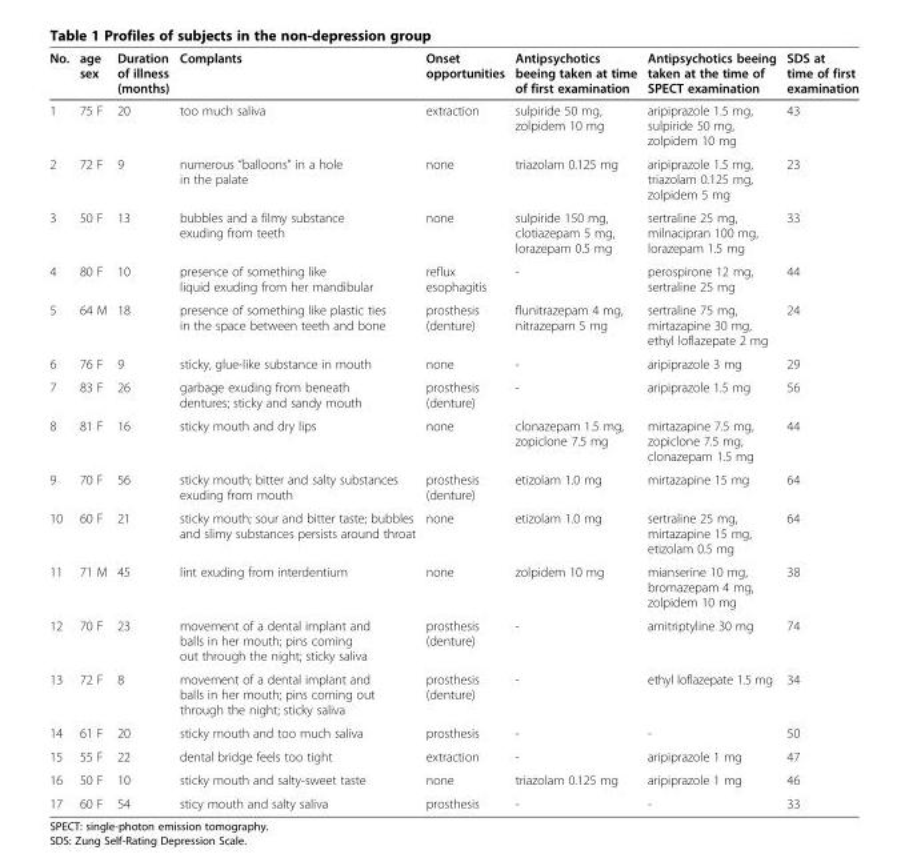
<table><thead><tr><td>No.</td><td>age sex</td><td>Duration of illness (months)</td><td>Complants</td><td>Onset opportunities</td><td>Antipsychotics beeing taken at time of first examination</td><td>Antipsychotics beeing taken at the time of SPECT examination</td><td>SDS at time of first examination</td></tr></thead><tbody><tr><td>1</td><td>75 F</td><td>20</td><td>too much saliva</td><td>extraction</td><td>sulpiride 50 mg, zolpidem 10 mg</td><td>aripiprazole 1.5 mg, sulpiride 50 mg, zolpidem 10 mg</td><td>43</td></tr><tr><td>2</td><td>72 F</td><td>9</td><td>numerous “balloons” in a hole in the palate</td><td>none</td><td>triazolam 0.125 mg</td><td>aripiprazole 1.5 mg, triazolam 0.125 mg, zolpidem 5 mg</td><td>23</td></tr><tr><td>3</td><td>50 F</td><td>13</td><td>bubbles and a filmy substance exuding from teeth</td><td>none</td><td>sulpiride 150 mg, clotiazepam 5 mg, lorazepam 0.5 mg</td><td>sertraline 25 mg, milnacipran 100 mg, lorazepam 1.5 mg</td><td>33</td></tr><tr><td>4</td><td>80 F</td><td>10</td><td>presence of something like liquid exuding from her mandibular</td><td>reflux esophagitis</td><td>-</td><td>perospirone 12 mg, sertraline 25 mg</td><td>44</td></tr><tr><td>5</td><td>64 M</td><td>18</td><td>presence of something like plastic ties in the space between teeth and bone</td><td>prosthesis (denture)</td><td>flunitrazepam 4 mg, nitrazepam 5 mg</td><td>sertraline 75 mg, mirtazapine 30 mg, ethyl loflazepate 2 mg</td><td>24</td></tr><tr><td>6</td><td>76 F</td><td>9</td><td>sticky, glue-like substance in mouth</td><td>none</td><td>-</td><td>aripiprazole 3 mg</td><td>29</td></tr><tr><td>7</td><td>83 F</td><td>26</td><td>garbage exuding from beneath dentures; sticky and sandy mouth</td><td>prosthesis (denture)</td><td>-</td><td>aripiprazole 1.5 mg</td><td>56</td></tr><tr><td>8</td><td>81 F</td><td>16</td><td>sticky mouth and dry lips</td><td>none</td><td>clonazepam 1.5 mg, zopiclone 7.5 mg</td><td>mirtazapine 7.5 mg, zopiclone 7.5 mg, clonazepam 1.5 mg</td><td>44</td></tr><tr><td>9</td><td>70 F</td><td>56</td><td>sticky mouth; bitter and salty substances exuding from mouth</td><td>prosthesis (denture)</td><td>etizolam 1.0 mg</td><td>mirtazapine 15 mg</td><td>64</td></tr><tr><td>10</td><td>60 F</td><td>21</td><td>sticky mouth; sour and bitter taste; bubbles and slimy substances persists around throat</td><td>none</td><td>etizolam 1.0 mg</td><td>sertraline 25 mg, mirtazapine 15 mg, etizolam 0.5 mg</td><td>64</td></tr><tr><td>11</td><td>71 M</td><td>45</td><td>lint exuding from interdentium</td><td>none</td><td>zolpidem 10 mg</td><td>mianserine 10 mg, bromazepam 4 mg, zolpidem 10 mg</td><td>38</td></tr><tr><td>12</td><td>70 F</td><td>23</td><td>movement of a dental implant and balls in her mouth; pins coming out through the night; sticky saliva</td><td>prosthesis (denture)</td><td>-</td><td>amitriptyline 30 mg</td><td>74</td></tr><tr><td>13</td><td>72 F</td><td>8</td><td>movement of a dental implant and balls in her mouth; pins coming out through the night; sticky saliva</td><td>prosthesis (denture)</td><td>-</td><td>ethyl loflazepate 1.5 mg</td><td>34</td></tr><tr><td>14</td><td>61 F</td><td>20</td><td>sticky mouth and too much saliva</td><td>prosthesis</td><td>-</td><td>-</td><td>50</td></tr><tr><td>15</td><td>55 F</td><td>22</td><td>dental bridge feels too tight</td><td>extraction</td><td>-</td><td>aripiprazole 1 mg</td><td>47</td></tr><tr><td>16</td><td>50 F</td><td>10</td><td>sticky mouth and salty-sweet taste</td><td>none</td><td>triazolam 0.125 mg</td><td>aripiprazole 1 mg</td><td>46</td></tr><tr><td>17</td><td>60 F</td><td>54</td><td>sticy mouth and salty saliva</td><td>prosthesis</td><td>-</td><td>-</td><td>33</td></tr></tbody></table>